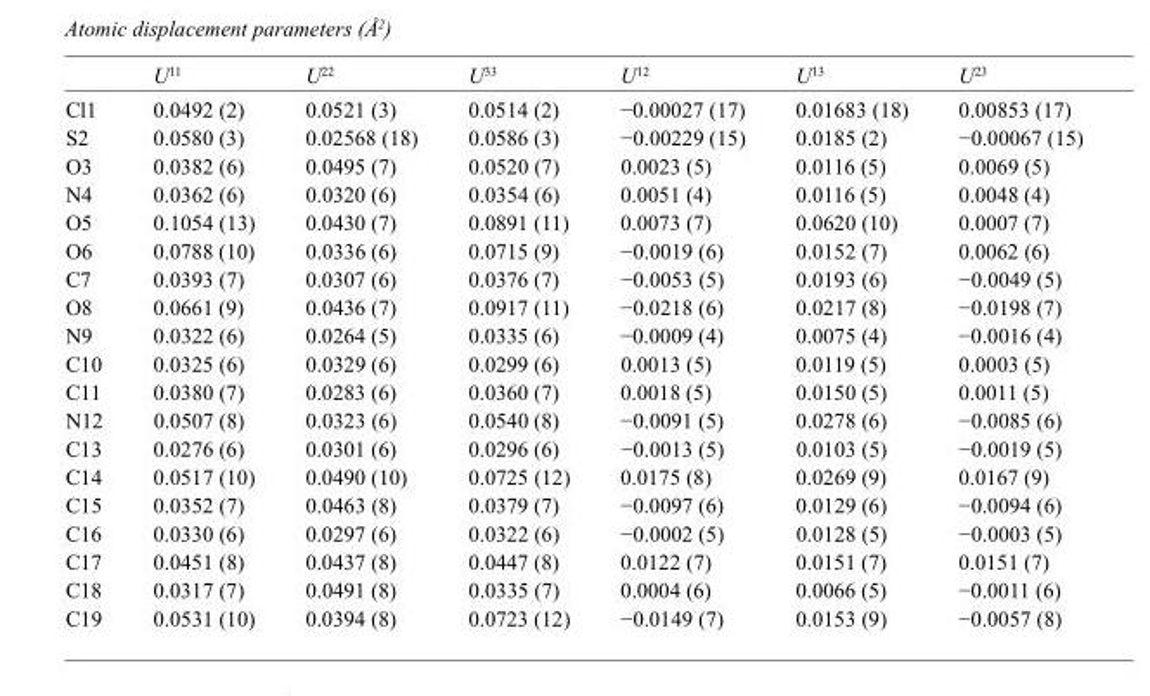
<table><thead><tr><td></td><td>U<sup>11</sup></td><td>U<sup>22</sup></td><td>U<sup>33</sup></td><td>U<sup>12</sup></td><td>U<sup>13</sup></td><td>U<sup>23</sup></td></tr></thead><tbody><tr><td>Cl1</td><td>0.0492 (2)</td><td>0.0521 (3)</td><td>0.0514 (2)</td><td>−0.00027 (17)</td><td>0.01683 (18)</td><td>0.00853 (17)</td></tr><tr><td>S2</td><td>0.0580 (3)</td><td>0.02568 (18)</td><td>0.0586 (3)</td><td>−0.00229 (15)</td><td>0.0185 (2)</td><td>−0.00067 (15)</td></tr><tr><td>O3</td><td>0.0382 (6)</td><td>0.0495 (7)</td><td>0.0520 (7)</td><td>0.0023 (5)</td><td>0.0116 (5)</td><td>0.0069 (5)</td></tr><tr><td>N4</td><td>0.0362 (6)</td><td>0.0320 (6)</td><td>0.0354 (6)</td><td>0.0051 (4)</td><td>0.0116 (5)</td><td>0.0048 (4)</td></tr><tr><td>O5</td><td>0.1054 (13)</td><td>0.0430 (7)</td><td>0.0891 (11)</td><td>0.0073 (7)</td><td>0.0620 (10)</td><td>0.0007 (7)</td></tr><tr><td>O6</td><td>0.0788 (10)</td><td>0.0336 (6)</td><td>0.0715 (9)</td><td>−0.0019 (6)</td><td>0.0152 (7)</td><td>0.0062 (6)</td></tr><tr><td>C7</td><td>0.0393 (7)</td><td>0.0307 (6)</td><td>0.0376 (7)</td><td>−0.0053 (5)</td><td>0.0193 (6)</td><td>−0.0049 (5)</td></tr><tr><td>O8</td><td>0.0661 (9)</td><td>0.0436 (7)</td><td>0.0917 (11)</td><td>−0.0218 (6)</td><td>0.0217 (8)</td><td>−0.0198 (7)</td></tr><tr><td>N9</td><td>0.0322 (6)</td><td>0.0264 (5)</td><td>0.0335 (6)</td><td>−0.0009 (4)</td><td>0.0075 (4)</td><td>−0.0016 (4)</td></tr><tr><td>C10</td><td>0.0325 (6)</td><td>0.0329 (6)</td><td>0.0299 (6)</td><td>0.0013 (5)</td><td>0.0119 (5)</td><td>0.0003 (5)</td></tr><tr><td>C11</td><td>0.0380 (7)</td><td>0.0283 (6)</td><td>0.0360 (7)</td><td>0.0018 (5)</td><td>0.0150 (5)</td><td>0.0011 (5)</td></tr><tr><td>N12</td><td>0.0507 (8)</td><td>0.0323 (6)</td><td>0.0540 (8)</td><td>−0.0091 (5)</td><td>0.0278 (6)</td><td>−0.0085 (6)</td></tr><tr><td>C13</td><td>0.0276 (6)</td><td>0.0301 (6)</td><td>0.0296 (6)</td><td>−0.0013 (5)</td><td>0.0103 (5)</td><td>−0.0019 (5)</td></tr><tr><td>C14</td><td>0.0517 (10)</td><td>0.0490 (10)</td><td>0.0725 (12)</td><td>0.0175 (8)</td><td>0.0269 (9)</td><td>0.0167 (9)</td></tr><tr><td>C15</td><td>0.0352 (7)</td><td>0.0463 (8)</td><td>0.0379 (7)</td><td>−0.0097 (6)</td><td>0.0129 (6)</td><td>−0.0094 (6)</td></tr><tr><td>C16</td><td>0.0330 (6)</td><td>0.0297 (6)</td><td>0.0322 (6)</td><td>−0.0002 (5)</td><td>0.0128 (5)</td><td>−0.0003 (5)</td></tr><tr><td>C17</td><td>0.0451 (8)</td><td>0.0437 (8)</td><td>0.0447 (8)</td><td>0.0122 (7)</td><td>0.0151 (7)</td><td>0.0151 (7)</td></tr><tr><td>C18</td><td>0.0317 (7)</td><td>0.0491 (8)</td><td>0.0335 (7)</td><td>0.0004 (6)</td><td>0.0066 (5)</td><td>−0.0011 (6)</td></tr><tr><td>C19</td><td>0.0531 (10)</td><td>0.0394 (8)</td><td>0.0723 (12)</td><td>−0.0149 (7)</td><td>0.0153 (9)</td><td>−0.0057 (8)</td></tr></tbody></table>